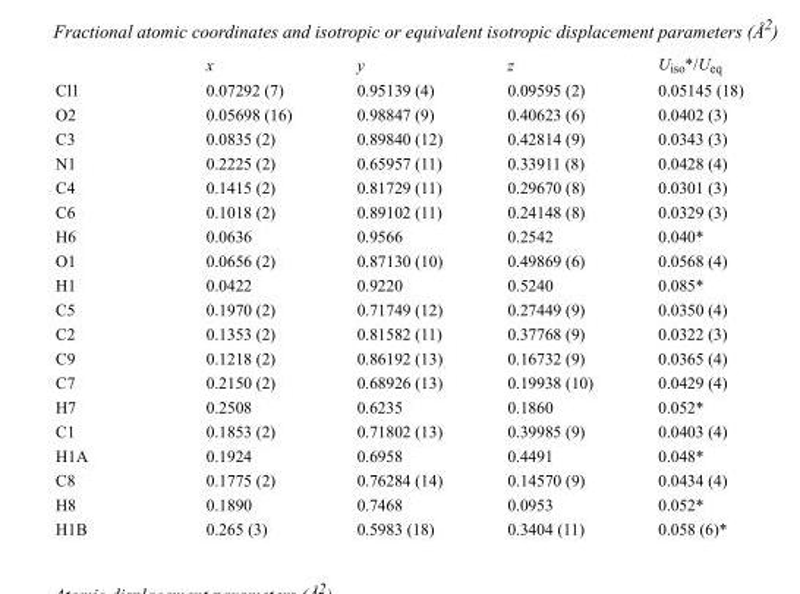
<table><thead><tr><td></td><td>x</td><td>y</td><td>z</td><td>U<sub>iso</sub>*/U<sub>eq</sub></td></tr></thead><tbody><tr><td>Cl1</td><td>0.07292 (7)</td><td>0.95139 (4)</td><td>0.09595 (2)</td><td>0.05145 (18)</td></tr><tr><td>O2</td><td>0.05698 (16)</td><td>0.98847 (9)</td><td>0.40623 (6)</td><td>0.0402 (3)</td></tr><tr><td>C3</td><td>0.0835 (2)</td><td>0.89840 (12)</td><td>0.42814 (9)</td><td>0.0343 (3)</td></tr><tr><td>N1</td><td>0.2225 (2)</td><td>0.65957 (11)</td><td>0.33911 (8)</td><td>0.0428 (4)</td></tr><tr><td>C4</td><td>0.1415 (2)</td><td>0.81729 (11)</td><td>0.29670 (8)</td><td>0.0301 (3)</td></tr><tr><td>C6</td><td>0.1018 (2)</td><td>0.89102 (11)</td><td>0.24148 (8)</td><td>0.0329 (3)</td></tr><tr><td>H6</td><td>0.0636</td><td>0.9566</td><td>0.2542</td><td>0.040*</td></tr><tr><td>O1</td><td>0.0656 (2)</td><td>0.87130 (10)</td><td>0.49869 (6)</td><td>0.0568 (4)</td></tr><tr><td>H1</td><td>0.0422</td><td>0.9220</td><td>0.5240</td><td>0.085*</td></tr><tr><td>C5</td><td>0.1970 (2)</td><td>0.71749 (12)</td><td>0.27449 (9)</td><td>0.0350 (4)</td></tr><tr><td>C2</td><td>0.1353 (2)</td><td>0.81582 (11)</td><td>0.37768 (9)</td><td>0.0322 (3)</td></tr><tr><td>C9</td><td>0.1218 (2)</td><td>0.86192 (13)</td><td>0.16732 (9)</td><td>0.0365 (4)</td></tr><tr><td>C7</td><td>0.2150 (2)</td><td>0.68926 (13)</td><td>0.19938 (10)</td><td>0.0429 (4)</td></tr><tr><td>H7</td><td>0.2508</td><td>0.6235</td><td>0.1860</td><td>0.052*</td></tr><tr><td>C1</td><td>0.1853 (2)</td><td>0.71802 (13)</td><td>0.39985 (9)</td><td>0.0403 (4)</td></tr><tr><td>H1A</td><td>0.1924</td><td>0.6958</td><td>0.4491</td><td>0.048*</td></tr><tr><td>C8</td><td>0.1775 (2)</td><td>0.76284 (14)</td><td>0.14570 (9)</td><td>0.0434 (4)</td></tr><tr><td>H8</td><td>0.1890</td><td>0.7468</td><td>0.0953</td><td>0.052*</td></tr><tr><td>H1B</td><td>0.265 (3)</td><td>0.5983 (18)</td><td>0.3404 (11)</td><td>0.058 (6)*</td></tr></tbody></table>